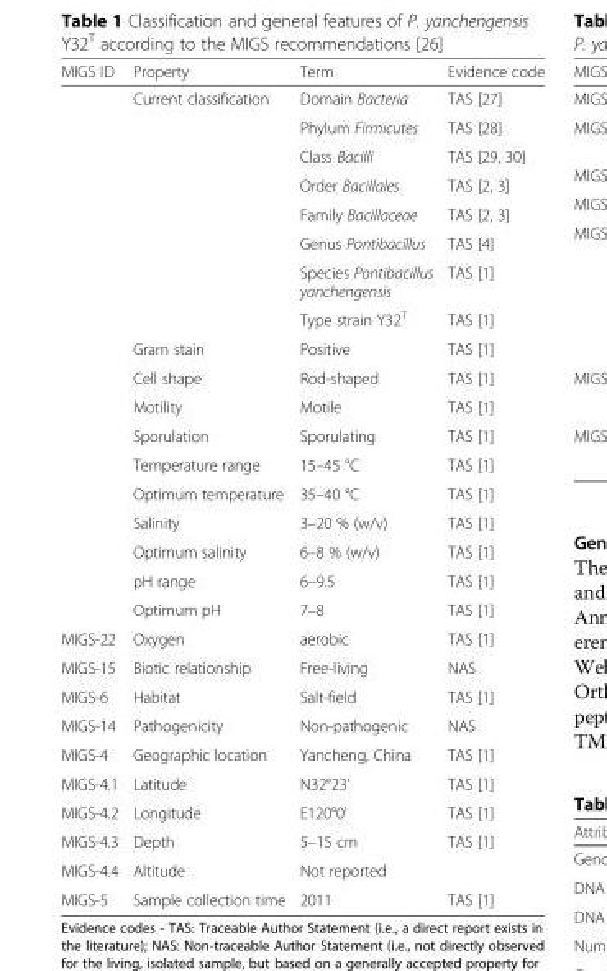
<table><thead><tr><td>MIGS ID</td><td>Property</td><td>Term</td><td>Evidence code</td></tr></thead><tbody><tr><td></td><td>Current classification</td><td>Domain Bacteria</td><td>TAS [27]</td></tr><tr><td></td><td></td><td>Phylum Firmicutes</td><td>TAS [28]</td></tr><tr><td></td><td></td><td>Class Bacilli</td><td>TAS [29, 30]</td></tr><tr><td></td><td></td><td>Order Bacillales</td><td>TAS [2, 3]</td></tr><tr><td></td><td></td><td>Family Bacillaceae</td><td>TAS [2, 3]</td></tr><tr><td></td><td></td><td>Genus Pontibacillus</td><td>TAS [4]</td></tr><tr><td></td><td></td><td>Species Pontibacillus yanchengensis</td><td>TAS [1]</td></tr><tr><td></td><td></td><td>Type strain Y32<sup>T</sup></td><td>TAS [1]</td></tr><tr><td></td><td>Gram stain</td><td>Positive</td><td>TAS [1]</td></tr><tr><td></td><td>Cell shape</td><td>Rod-shaped</td><td>TAS [1]</td></tr><tr><td></td><td>Motility</td><td>Motile</td><td>TAS [1]</td></tr><tr><td></td><td>Sporulation</td><td>Sporulating</td><td>TAS [1]</td></tr><tr><td></td><td>Temperature range</td><td>15–45 °C</td><td>TAS [1]</td></tr><tr><td></td><td>Optimum temperature</td><td>35–40 °C</td><td>TAS [1]</td></tr><tr><td></td><td>Salinity</td><td>3–20 % (w/v)</td><td>TAS [1]</td></tr><tr><td></td><td>Optimum salinity</td><td>6–8 % (w/v)</td><td>TAS [1]</td></tr><tr><td></td><td>pH range</td><td>6–9.5</td><td>TAS [1]</td></tr><tr><td></td><td>Optimum pH</td><td>7–8</td><td>TAS [1]</td></tr><tr><td>MIGS-22</td><td>Oxygen</td><td>aerobic</td><td>TAS [1]</td></tr><tr><td>MIGS-15</td><td>Biotic relationship</td><td>Free-living</td><td>NAS</td></tr><tr><td>MIGS-6</td><td>Habitat</td><td>Salt-field</td><td>TAS [1]</td></tr><tr><td>MIGS-14</td><td>Pathogenicity</td><td>Non-pathogenic</td><td>NAS</td></tr><tr><td>MIGS-4</td><td>Geographic location</td><td>Yancheng, China</td><td>TAS [1]</td></tr><tr><td>MIGS-4.1</td><td>Latitude</td><td>N32°23&#x27;</td><td>TAS [1]</td></tr><tr><td>MIGS-4.2</td><td>Longitude</td><td>E120°0&#x27;</td><td>TAS [1]</td></tr><tr><td>MIGS-4.3</td><td>Depth</td><td>5–15 cm</td><td>TAS [1]</td></tr><tr><td>MIGS-4.4</td><td>Altitude</td><td>Not reported</td><td></td></tr><tr><td>MIGS-5</td><td>Sample collection time</td><td>2011</td><td>TAS [1]</td></tr></tbody></table>